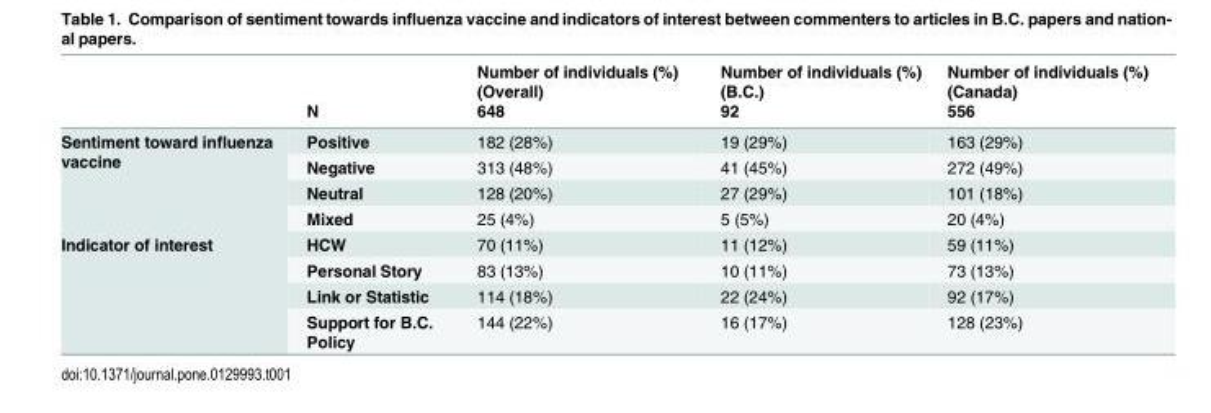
<table><thead><tr><td rowspan="2"></td><td rowspan="2">N</td><td rowspan="2">Number of individuals (%) (Overall) 648</td><td rowspan="2">Number of individuals (%) (B.C.) 92</td><td rowspan="2">Number of individuals (%) (Canada) 556</td></tr><tr></tr></thead><tbody><tr><td rowspan="4">Sentiment toward influenza vaccine</td><td>Positive</td><td>182 (28%)</td><td>19 (29%)</td><td>163 (29%)</td></tr><tr><td>Negative</td><td>313 (48%)</td><td>41 (45%)</td><td>272 (49%)</td></tr><tr><td>Neutral</td><td>128 (20%)</td><td>27 (29%)</td><td>101 (18%)</td></tr><tr><td>Mixed</td><td>25 (4%)</td><td>5 (5%)</td><td>20 (4%)</td></tr><tr><td rowspan="4">Indicator of interest</td><td>HCW</td><td>70 (11%)</td><td>11 (12%)</td><td>59 (11%)</td></tr><tr><td>Personal Story</td><td>83 (13%)</td><td>10 (11%)</td><td>73 (13%)</td></tr><tr><td>Link or Statistic</td><td>114 (18%)</td><td>22 (24%)</td><td>92 (17%)</td></tr><tr><td>Support for B.C. Policy</td><td>144 (22%)</td><td>16 (17%)</td><td>128 (23%)</td></tr></tbody></table>